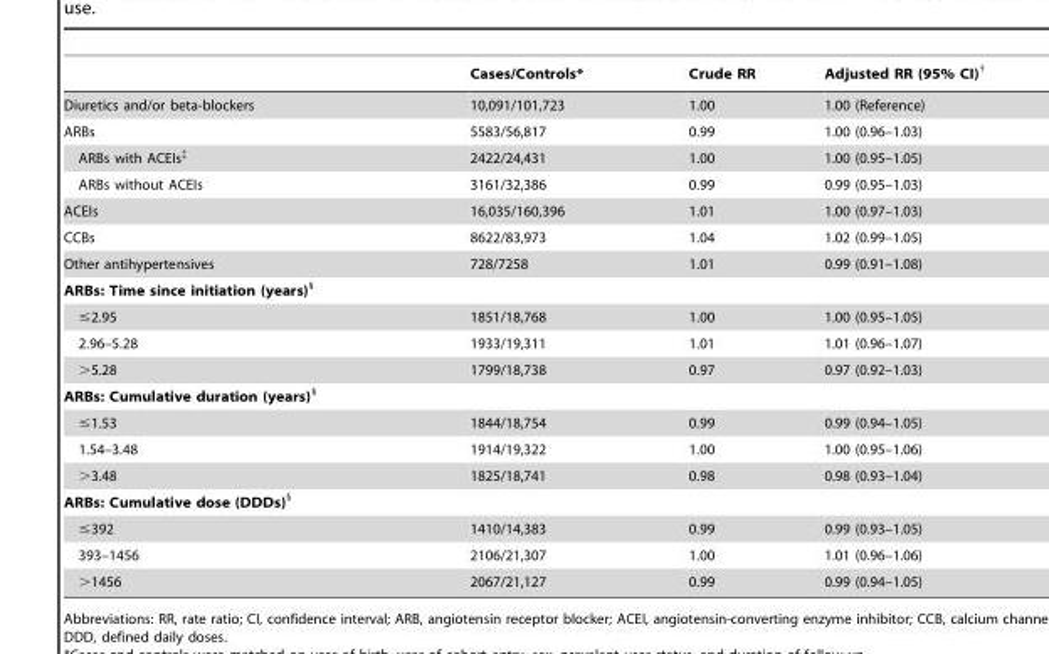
<table><thead><tr><td></td><td>Cases/Controls*</td><td>Crude RR</td><td>Adjusted RR (95% CI)†</td></tr></thead><tbody><tr><td>Diuretics and/or beta-blockers</td><td>10,091/101,723</td><td>1.00</td><td>1.00 (Reference)</td></tr><tr><td>ARBs</td><td>5583/56,817</td><td>0.99</td><td>1.00 (0.96–1.03)</td></tr><tr><td>ARBs with ACEIs‡</td><td>2422/24,431</td><td>1.00</td><td>1.00 (0.95–1.05)</td></tr><tr><td>ARBs without ACEIs</td><td>3161/32,386</td><td>0.99</td><td>0.99 (0.95–1.03)</td></tr><tr><td>ACEIs</td><td>16,035/160,396</td><td>1.01</td><td>1.00 (0.97–1.03)</td></tr><tr><td>CCBs</td><td>8622/83,973</td><td>1.04</td><td>1.02 (0.99–1.05)</td></tr><tr><td>Other antihypertensives</td><td>728/7258</td><td>1.01</td><td>0.99 (0.91–1.08)</td></tr><tr><td colspan="4">ARBs: Time since initiation (years)§</td></tr><tr><td>≤2.95</td><td>1851/18,768</td><td>1.00</td><td>1.00 (0.95–1.05)</td></tr><tr><td>2.96–5.28</td><td>1933/19,311</td><td>1.01</td><td>1.01 (0.96–1.07)</td></tr><tr><td>&gt;5.28</td><td>1799/18,738</td><td>0.97</td><td>0.97 (0.92–1.03)</td></tr><tr><td colspan="4">ARBs: Cumulative duration (years)§</td></tr><tr><td>≤1.53</td><td>1844/18,754</td><td>0.99</td><td>0.99 (0.94–1.05)</td></tr><tr><td>1.54–3.48</td><td>1914/19,322</td><td>1.00</td><td>1.00 (0.95–1.06)</td></tr><tr><td>&gt;3.48</td><td>1825/18,741</td><td>0.98</td><td>0.98 (0.93–1.04)</td></tr><tr><td colspan="4">ARBs: Cumulative dose (DDDs)§</td></tr><tr><td>≤392</td><td>1410/14,383</td><td>0.99</td><td>0.99 (0.93–1.05)</td></tr><tr><td>393–1456</td><td>2106/21,307</td><td>1.00</td><td>1.01 (0.96–1.06)</td></tr><tr><td>&gt;1456</td><td>2067/21,127</td><td>0.99</td><td>0.99 (0.94–1.05)</td></tr></tbody></table>